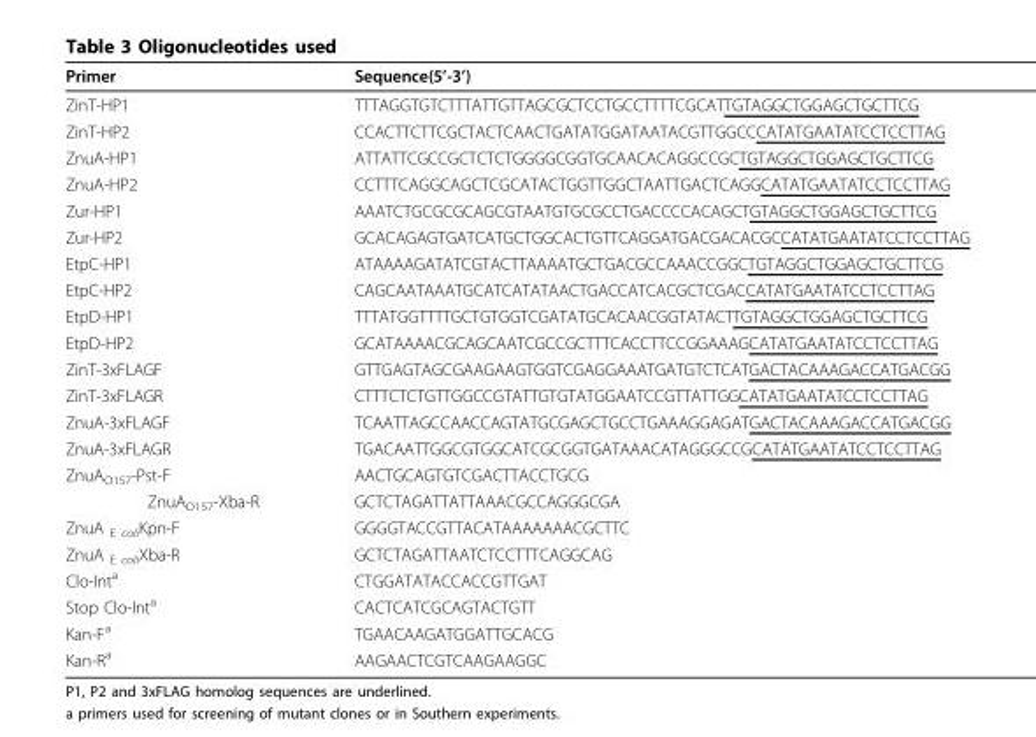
<table><thead><tr><td>Primer</td><td>Sequence(5’-3’)</td></tr></thead><tbody><tr><td>ZinT-HP1</td><td>TTTAGGTGTCTTTATTGTTAGCGCTCCTGCCTTTTCGCATTGTAGGCTGGAGCTGCTTCG</td></tr><tr><td>ZinT-HP2</td><td>CCACTTCTTCGCTACTCAACTGATATGGATAATACGTTGGCCCATATGAATATCCTCCTTAG</td></tr><tr><td>ZnuA-HP1</td><td>ATTATTCGCCGCTCTCTGGGGCGGTGCAACACAGGCCGCTGTAGGCTGGAGCTGCTTCG</td></tr><tr><td>ZnuA-HP2</td><td>CCTTTCAGGCAGCTCGCATACTGGTTGGCTAATTGACTCAGGCATATGAATATCCTCCTTAG</td></tr><tr><td>Zur-HP1</td><td>AAATCTGCGCGCAGCGTAATGTGCGCCTGACCCCACAGCTGTAGGCTGGAGCTGCTTCG</td></tr><tr><td>Zur-HP2</td><td>GCACAGAGTGATCATGCTGGCACTGTTCAGGATGACGACACGCCATATGAATATCCTCCTTAG</td></tr><tr><td>EtpC-HP1</td><td>ATAAAAGATATCGTACTTAAAATGCTGACGCCAAACCGGCTGTAGGCTGGAGCTGCTTCG</td></tr><tr><td>EtpC-HP2</td><td>CAGCAATAAATGCATCATATAACTGACCATCACGCTCGACCATATGAATATCCTCCTTAG</td></tr><tr><td>EtpD-HP1</td><td>TTTATGGTTTTGCTGTGGTCGATATGCACAACGGTATACTTGTAGGCTGGAGCTGCTTCG</td></tr><tr><td>EtpD-HP2</td><td>GCATAAAACGCAGCAATCGCCGCTTTCACCTTCCGGAAAGCATATGAATATCCTCCTTAG</td></tr><tr><td>ZinT-3xFLAGF</td><td>GTTGAGTAGCGAAGAAGTGGTCGAGGAAATGATGTCTCATGACTACAAAGACCATGACGG</td></tr><tr><td>ZinT-3xFLAGR</td><td>CTTTCTCTGTTGGCCGTATTGTGTATGGAATCCGTTATTGGCATATGAATATCCTCCTTAG</td></tr><tr><td>ZnuA-3xFLAGF</td><td>TCAATTAGCCAACCAGTATGCGAGCTGCCTGAAAGGAGATGACTACAAAGACCATGACGG</td></tr><tr><td>ZnuA-3xFLAGR</td><td>TGACAATTGGCGTGGCATCGCGGTGATAAACATAGGGCCGCATATGAATATCCTCCTTAG</td></tr><tr><td>ZnuA<sub>O157</sub>-Pst-F</td><td>AACTGCAGTGTCGACTTACCTGCG</td></tr><tr><td>ZnuA<sub>O157</sub>-Xba-R</td><td>GCTCTAGATTATTAAACGCCAGGGCGA</td></tr><tr><td>ZnuA <sub>E coli</sub>Kpn-F</td><td>GGGGTACCGTTACATAAAAAAACGCTTC</td></tr><tr><td>ZnuA <sub>E coli</sub>Xba-R</td><td>GCTCTAGATTAATCTCCTTTCAGGCAG</td></tr><tr><td>Clo-Int<sup>a</sup></td><td>CTGGATATACCACCGTTGAT</td></tr><tr><td>Stop Clo-Int<sup>a</sup></td><td>CACTCATCGCAGTACTGTT</td></tr><tr><td>Kan-F<sup>a</sup></td><td>TGAACAAGATGGATTGCACG</td></tr><tr><td>Kan-R<sup>a</sup></td><td>AAGAACTCGTCAAGAAGGC</td></tr></tbody></table>